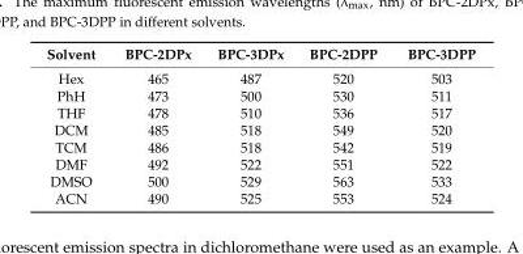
<table><thead><tr><td>Solvent</td><td>BPC-2DPx</td><td>BPC-3DPx</td><td>BPC-2DPP</td><td>BPC-3DPP</td></tr></thead><tbody><tr><td>Hex</td><td>465</td><td>487</td><td>520</td><td>503</td></tr><tr><td>PhH</td><td>473</td><td>500</td><td>530</td><td>511</td></tr><tr><td>THF</td><td>478</td><td>510</td><td>536</td><td>517</td></tr><tr><td>DCM</td><td>485</td><td>518</td><td>549</td><td>520</td></tr><tr><td>TCM</td><td>486</td><td>518</td><td>542</td><td>519</td></tr><tr><td>DMF</td><td>492</td><td>522</td><td>551</td><td>522</td></tr><tr><td>DMSO</td><td>500</td><td>529</td><td>563</td><td>533</td></tr><tr><td>ACN</td><td>490</td><td>525</td><td>553</td><td>524</td></tr></tbody></table>